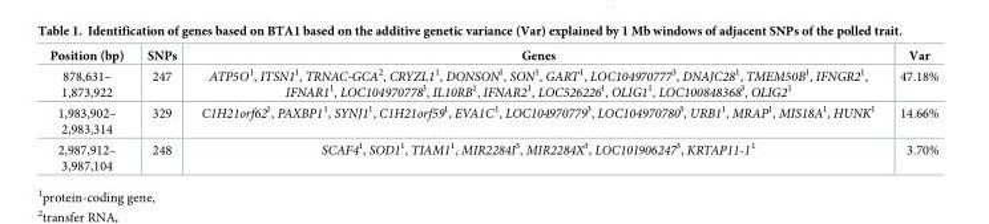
<table><thead><tr><td>Position (bp)</td><td>SNPs</td><td>Genes</td><td>Var</td></tr></thead><tbody><tr><td>878,631– 1,873,922</td><td>247</td><td>ATP5O1, ITSN11, TRNAC-GCA2, CRYZL11, DONSON1, SON1, GART1, LOC1049707773, DNAJC281, TMEM50B1, IFNGR21, IFNAR11, LOC1049707783, IL10RB1, IFNAR21, LOC5262261, OLIG11, LOC1008483683, OLIG21</td><td>47.18%</td></tr><tr><td>1,983,902– 2,983,314</td><td>329</td><td>C1H21orf62<sup>1</sup>, PAXBP1<sup>1</sup>, SYNJ1<sup>1</sup>, C1H21orf59<sup>1</sup>, EVA1C<sup>1</sup>, LOC104970779<sup>3</sup>, LOC104970780<sup>3</sup>, URB1<sup>1</sup>, MRAP<sup>1</sup>, MIS18A<sup>1</sup>, HUNK<sup>1</sup></td><td>14.66%</td></tr><tr><td>2,987,912– 3,987,104</td><td>248</td><td>SCAF4<sup>1</sup>, SOD1<sup>1</sup>, TIAM1<sup>1</sup>, MIR2284I<sup>3</sup>, MIR2284X<sup>3</sup>, LOC101906247<sup>3</sup>, KRTAP11-1<sup>1</sup></td><td>3.70%</td></tr></tbody></table>